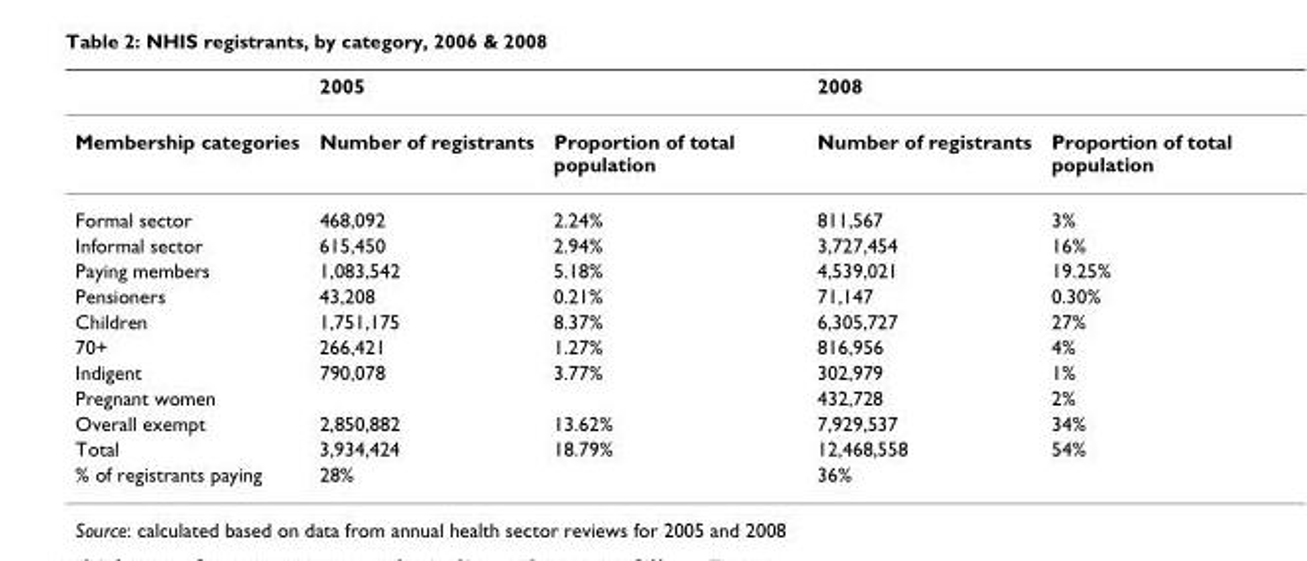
<table><thead><tr><td></td><td>2005</td><td></td><td>2008</td><td></td></tr></thead><tbody><tr><td>Membership categories</td><td>Number of registrants</td><td>Proportion of total population</td><td>Number of registrants</td><td>Proportion of total population</td></tr><tr><td>Formal sector</td><td>468,092</td><td>2.24%</td><td>811,567</td><td>3%</td></tr><tr><td>Informal sector</td><td>615,450</td><td>2.94%</td><td>3,727,454</td><td>16%</td></tr><tr><td>Paying members</td><td>1,083,542</td><td>5.18%</td><td>4,539,021</td><td>19.25%</td></tr><tr><td>Pensioners</td><td>43,208</td><td>0.21%</td><td>71,147</td><td>0.30%</td></tr><tr><td>Children</td><td>1,751,175</td><td>8.37%</td><td>6,305,727</td><td>27%</td></tr><tr><td>70+</td><td>266,421</td><td>1.27%</td><td>816,956</td><td>4%</td></tr><tr><td>Indigent</td><td>790,078</td><td>3.77%</td><td>302,979</td><td>1%</td></tr><tr><td>Pregnant women</td><td></td><td></td><td>432,728</td><td>2%</td></tr><tr><td>Overall exempt</td><td>2,850,882</td><td>13.62%</td><td>7,929,537</td><td>34%</td></tr><tr><td>Total</td><td>3,934,424</td><td>18.79%</td><td>12,468,558</td><td>54%</td></tr><tr><td>% of registrants paying</td><td>28%</td><td></td><td>36%</td><td></td></tr></tbody></table>